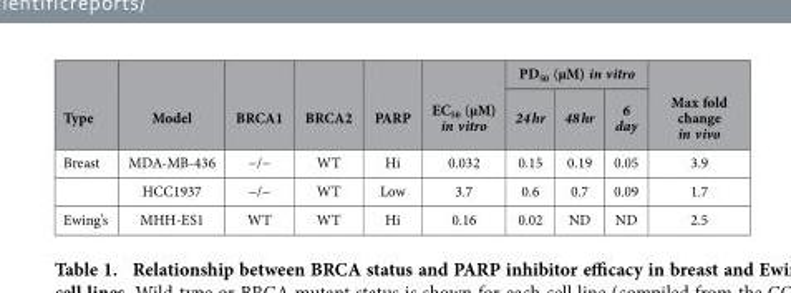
<table><thead><tr><td rowspan="2">Type</td><td rowspan="2">Model</td><td rowspan="2">BRCA1</td><td rowspan="2">BRCA2</td><td rowspan="2">PARP</td><td rowspan="2">EC<sub>50</sub> (μM) in vitro</td><td colspan="3">PD<sub>50</sub> (μM) in vitro</td><td rowspan="2">Max fold change in vivo</td></tr><tr><td>24 hr</td><td>48 hr</td><td>6 day</td></tr></thead><tbody><tr><td rowspan="2">Breast</td><td>MDA-MB-436</td><td>−/−</td><td>WT</td><td>Hi</td><td>0.032</td><td>0.15</td><td>0.19</td><td>0.05</td><td>3.9</td></tr><tr><td>HCC1937</td><td>−/−</td><td>WT</td><td>Low</td><td>3.7</td><td>0.6</td><td>0.7</td><td>0.09</td><td>1.7</td></tr><tr><td>Ewing’s</td><td>MHH-ES1</td><td>WT</td><td>WT</td><td>Hi</td><td>0.16</td><td>0.02</td><td>ND</td><td>ND</td><td>2.5</td></tr></tbody></table>